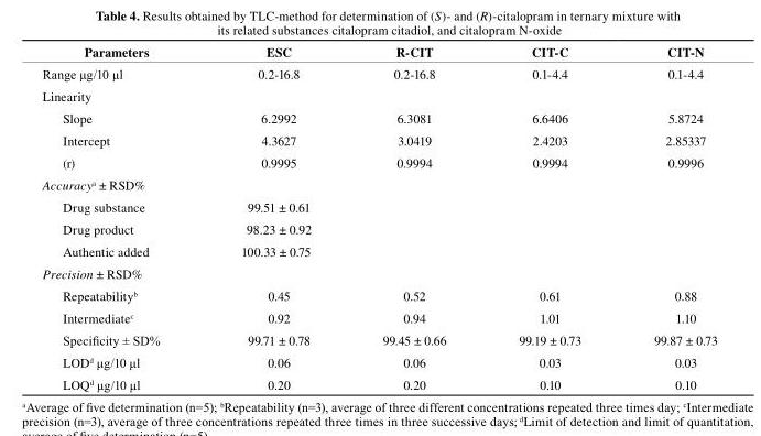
<table><thead><tr><td>Parameters</td><td>Esc</td><td>r-cIt</td><td>cIt-c</td><td>cIt-N</td></tr></thead><tbody><tr><td>Range μg/10 μl</td><td>0.2-16.8</td><td>0.2-16.8</td><td>0.1-4.4</td><td>0.1-4.4</td></tr><tr><td colspan="5">Linearity</td></tr><tr><td>Slope</td><td>6.2992</td><td>6.3081</td><td>6.6406</td><td>5.8724</td></tr><tr><td>Intercept</td><td>4.3627</td><td>3.0419</td><td>2.4203</td><td>2.85337</td></tr><tr><td>(r)</td><td>0.9995</td><td>0.9994</td><td>0.9994</td><td>0.9996</td></tr><tr><td colspan="5">Accuracy<sup>a</sup> ± RSD%</td></tr><tr><td>Drug substance</td><td>99.51 ± 0.61</td><td></td><td></td><td></td></tr><tr><td>Drug product</td><td>98.23 ± 0.92</td><td></td><td></td><td></td></tr><tr><td>Authentic added</td><td>100.33 ± 0.75</td><td></td><td></td><td></td></tr><tr><td colspan="5">Precision ± RSD%</td></tr><tr><td>Repeatability<sup>b</sup></td><td>0.45</td><td>0.52</td><td>0.61</td><td>0.88</td></tr><tr><td>Intermediate<sup>c</sup></td><td>0.92</td><td>0.94</td><td>1.01</td><td>1.10</td></tr><tr><td>Specificity ± SD%</td><td>99.71 ± 0.78</td><td>99.45 ± 0.66</td><td>99.19 ± 0.73</td><td>99.87 ± 0.73</td></tr><tr><td>LOD<sup>d</sup> μg/10 μl</td><td>0.06</td><td>0.06</td><td>0.03</td><td>0.03</td></tr><tr><td>LOQ<sup>d</sup> μg/10 μl</td><td>0.20</td><td>0.20</td><td>0.10</td><td>0.10</td></tr></tbody></table>